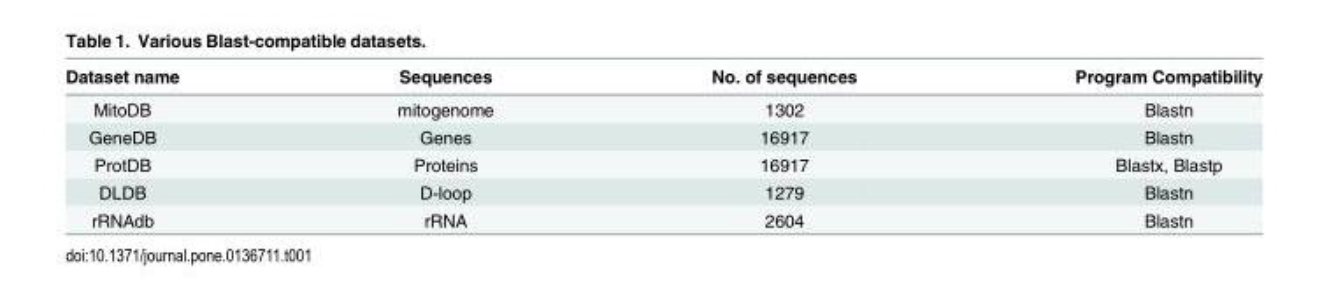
<table><thead><tr><td>Dataset name</td><td>Sequences</td><td>No. of sequences</td><td>Program Compatibility</td></tr></thead><tbody><tr><td>MitoDB</td><td>mitogenome</td><td>1302</td><td>Blastn</td></tr><tr><td>GeneDB</td><td>Genes</td><td>16917</td><td>Blastn</td></tr><tr><td>ProtDB</td><td>Proteins</td><td>16917</td><td>Blastx, Blastp</td></tr><tr><td>DLDB</td><td>D-loop</td><td>1279</td><td>Blastn</td></tr><tr><td>rRNAdb</td><td>rRNA</td><td>2604</td><td>Blastn</td></tr></tbody></table>